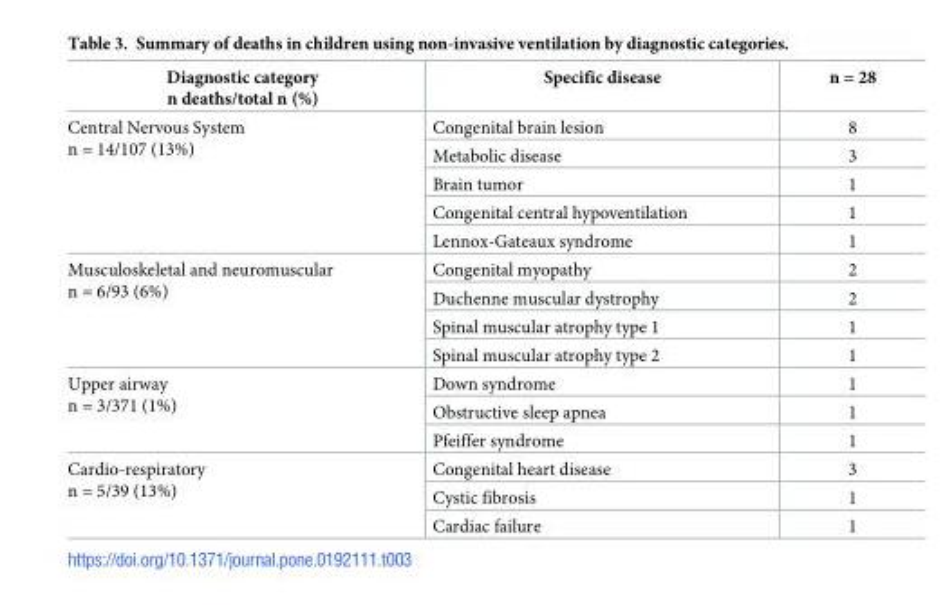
<table><thead><tr><td>Diagnostic category n deaths/total n (%)</td><td>Specific disease</td><td>n = 28</td></tr></thead><tbody><tr><td rowspan="5">Central Nervous System n = 14/107 (13%)</td><td>Congenital brain lesion</td><td>8</td></tr><tr><td>Metabolic disease</td><td>3</td></tr><tr><td>Brain tumor</td><td>1</td></tr><tr><td>Congenital central hypoventilation</td><td>1</td></tr><tr><td>Lennox-Gateaux syndrome</td><td>1</td></tr><tr><td rowspan="4">Musculoskeletal and neuromuscular n = 6/93 (6%)</td><td>Congenital myopathy</td><td>2</td></tr><tr><td>Duchenne muscular dystrophy</td><td>2</td></tr><tr><td>Spinal muscular atrophy type 1</td><td>1</td></tr><tr><td>Spinal muscular atrophy type 2</td><td>1</td></tr><tr><td rowspan="3">Upper airway n = 3/371 (1%)</td><td>Down syndrome</td><td>1</td></tr><tr><td>Obstructive sleep apnea</td><td>1</td></tr><tr><td>Pfeiffer syndrome</td><td>1</td></tr><tr><td rowspan="3">Cardio-respiratory n = 5/39 (13%)</td><td>Congenital heart disease</td><td>3</td></tr><tr><td>Cystic fibrosis</td><td>1</td></tr><tr><td>Cardiac failure</td><td>1</td></tr></tbody></table>